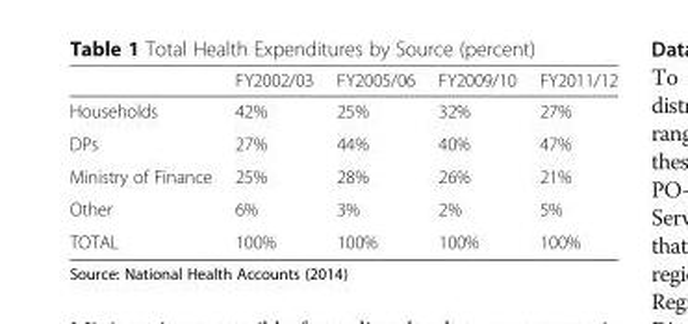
<table><thead><tr><td></td><td>FY2002/03</td><td>FY2005/06</td><td>FY2009/10</td><td>FY2011/12</td></tr></thead><tbody><tr><td>Households</td><td>42%</td><td>25%</td><td>32%</td><td>27%</td></tr><tr><td>DPs</td><td>27%</td><td>44%</td><td>40%</td><td>47%</td></tr><tr><td>Ministry of Finance</td><td>25%</td><td>28%</td><td>26%</td><td>21%</td></tr><tr><td>Other</td><td>6%</td><td>3%</td><td>2%</td><td>5%</td></tr><tr><td>TOTAL</td><td>100%</td><td>100%</td><td>100%</td><td>100%</td></tr></tbody></table>